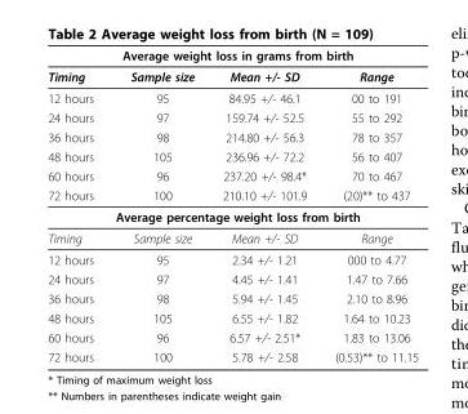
<table><thead><tr><td colspan="4">Average weight loss in grams from birth</td></tr><tr><td>Timing</td><td>Sample size</td><td>Mean +/- SD</td><td>Range</td></tr></thead><tbody><tr><td>12 hours</td><td>95</td><td>84.95 +/- 46.1</td><td>00 to 191</td></tr><tr><td>24 hours</td><td>97</td><td>159.74 +/- 52.5</td><td>55 to 292</td></tr><tr><td>36 hours</td><td>98</td><td>214.80 +/- 56.3</td><td>78 to 357</td></tr><tr><td>48 hours</td><td>105</td><td>236.96 +/- 72.2</td><td>56 to 407</td></tr><tr><td>60 hours</td><td>96</td><td>237.20 +/- 98.4*</td><td>70 to 467</td></tr><tr><td>72 hours</td><td>100</td><td>210.10 +/- 101.9</td><td>(20)** to 437</td></tr><tr><td colspan="4">Average percentage weight loss from birth</td></tr><tr><td>Timing</td><td>Sample size</td><td>Mean +/- SD</td><td>Range</td></tr><tr><td>12 hours</td><td>95</td><td>2.34 +/- 1.21</td><td>000 to 4.77</td></tr><tr><td>24 hours</td><td>97</td><td>4.45 +/- 1.41</td><td>1.47 to 7.66</td></tr><tr><td>36 hours</td><td>98</td><td>5.94 +/- 1.45</td><td>2.10 to 8.96</td></tr><tr><td>48 hours</td><td>105</td><td>6.55 +/- 1.82</td><td>1.64 to 10.23</td></tr><tr><td>60 hours</td><td>96</td><td>6.57 +/- 2.51*</td><td>1.83 to 13.06</td></tr><tr><td>72 hours</td><td>100</td><td>5.78 +/- 2.58</td><td>(0.53)** to 11.15</td></tr></tbody></table>